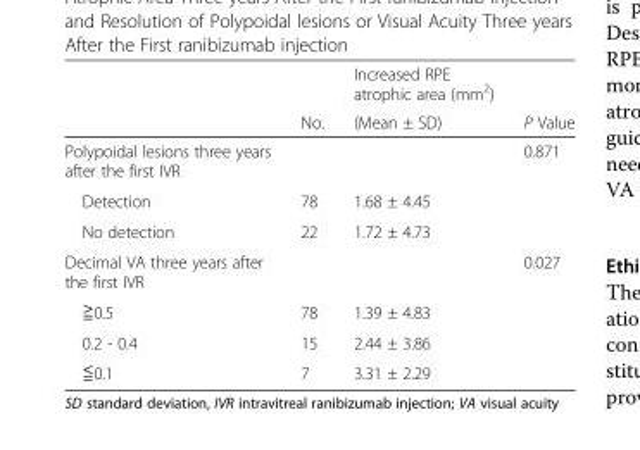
<table><thead><tr><td rowspan="2"></td><td rowspan="2">No.</td><td rowspan="2">Increased RPE atrophic area (mm<sup>2</sup>) (Mean ± SD)</td><td rowspan="2">P Value</td></tr><tr></tr></thead><tbody><tr><td>Polypoidal lesions three years after the first IVR</td><td></td><td></td><td>0.871</td></tr><tr><td>Detection</td><td>78</td><td>1.68 ± 4.45</td><td></td></tr><tr><td>No detection</td><td>22</td><td>1.72 ± 4.73</td><td></td></tr><tr><td>Decimal VA three years after the first IVR</td><td></td><td></td><td>0.027</td></tr><tr><td>≧0.5</td><td>78</td><td>1.39 ± 4.83</td><td></td></tr><tr><td>0.2 - 0.4</td><td>15</td><td>2.44 ± 3.86</td><td></td></tr><tr><td>≦0.1</td><td>7</td><td>3.31 ± 2.29</td><td></td></tr></tbody></table>